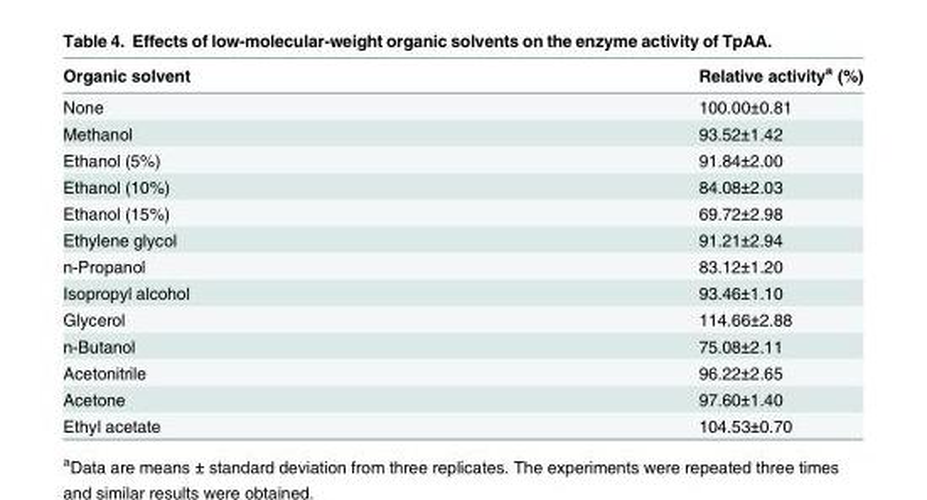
<table><thead><tr><td>Organic solvent</td><td>Relative activity<sup>a</sup> (%)</td></tr></thead><tbody><tr><td>None</td><td>100.00±0.81</td></tr><tr><td>Methanol</td><td>93.52±1.42</td></tr><tr><td>Ethanol (5%)</td><td>91.84±2.00</td></tr><tr><td>Ethanol (10%)</td><td>84.08±2.03</td></tr><tr><td>Ethanol (15%)</td><td>69.72±2.98</td></tr><tr><td>Ethylene glycol</td><td>91.21±2.94</td></tr><tr><td>n-Propanol</td><td>83.12±1.20</td></tr><tr><td>Isopropyl alcohol</td><td>93.46±1.10</td></tr><tr><td>Glycerol</td><td>114.66±2.88</td></tr><tr><td>n-Butanol</td><td>75.08±2.11</td></tr><tr><td>Acetonitrile</td><td>96.22±2.65</td></tr><tr><td>Acetone</td><td>97.60±1.40</td></tr><tr><td>Ethyl acetate</td><td>104.53±0.70</td></tr></tbody></table>